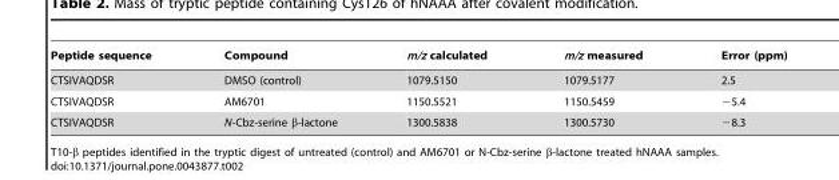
<table><thead><tr><td>Peptide sequence</td><td>Compound</td><td>m/z calculated</td><td>m/z measured</td><td>Error (ppm)</td></tr></thead><tbody><tr><td>CTSIVAQDSR</td><td>DMSO (control)</td><td>1079.5150</td><td>1079.5177</td><td>2.5</td></tr><tr><td>CTSIVAQDSR</td><td>AM6701</td><td>1150.5521</td><td>1150.5459</td><td>−5.4</td></tr><tr><td>CTSIVAQDSR</td><td>N-Cbz-serine β-lactone</td><td>1300.5838</td><td>1300.5730</td><td>−8.3</td></tr></tbody></table>